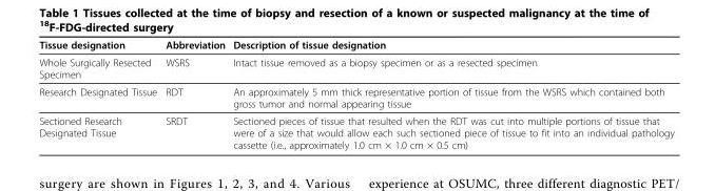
<table><thead><tr><td>Tissue designation</td><td>Abbreviation</td><td>Description of tissue designation</td></tr></thead><tbody><tr><td>Whole Surgically Resected Specimen</td><td>WSRS</td><td>Intact tissue removed as a biopsy specimen or as a resected specimen</td></tr><tr><td>Research Designated Tissue</td><td>RDT</td><td>An approximately 5 mm thick representative portion of tissue from the WSRS which contained both gross tumor and normal appearing tissue</td></tr><tr><td>Sectioned Research Designated Tissue</td><td>SRDT</td><td>Sectioned pieces of tissue that resulted when the RDT was cut into multiple portions of tissue that were of a size that would allow each such sectioned piece of tissue to fit into an individual pathology cassette (i.e., approximately 1.0 cm × 1.0 cm × 0.5 cm)</td></tr></tbody></table>